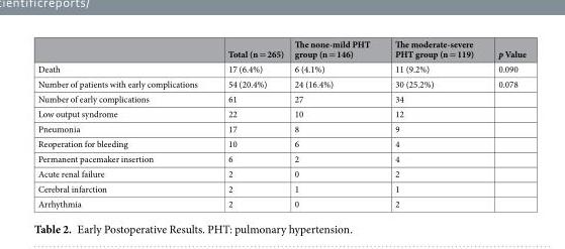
<table><thead><tr><td></td><td>Total (n = 265)</td><td>The none-mild PHT group (n = 146)</td><td>The moderate-severe PHT group (n = 119)</td><td>p Value</td></tr></thead><tbody><tr><td>Death</td><td>17 (6.4%)</td><td>6 (4.1%)</td><td>11 (9.2%)</td><td>0.090</td></tr><tr><td>Number of patients with early complications</td><td>54 (20.4%)</td><td>24 (16.4%)</td><td>30 (25.2%)</td><td>0.078</td></tr><tr><td>Number of early complications</td><td>61</td><td>27</td><td>34</td><td></td></tr><tr><td>Low output syndrome</td><td>22</td><td>10</td><td>12</td><td></td></tr><tr><td>Pneumonia</td><td>17</td><td>8</td><td>9</td><td></td></tr><tr><td>Reoperation for bleeding</td><td>10</td><td>6</td><td>4</td><td></td></tr><tr><td>Permanent pacemaker insertion</td><td>6</td><td>2</td><td>4</td><td></td></tr><tr><td>Acute renal failure</td><td>2</td><td>0</td><td>2</td><td></td></tr><tr><td>Cerebral infarction</td><td>2</td><td>1</td><td>1</td><td></td></tr><tr><td>Arrhythmia</td><td>2</td><td>0</td><td>2</td><td></td></tr></tbody></table>